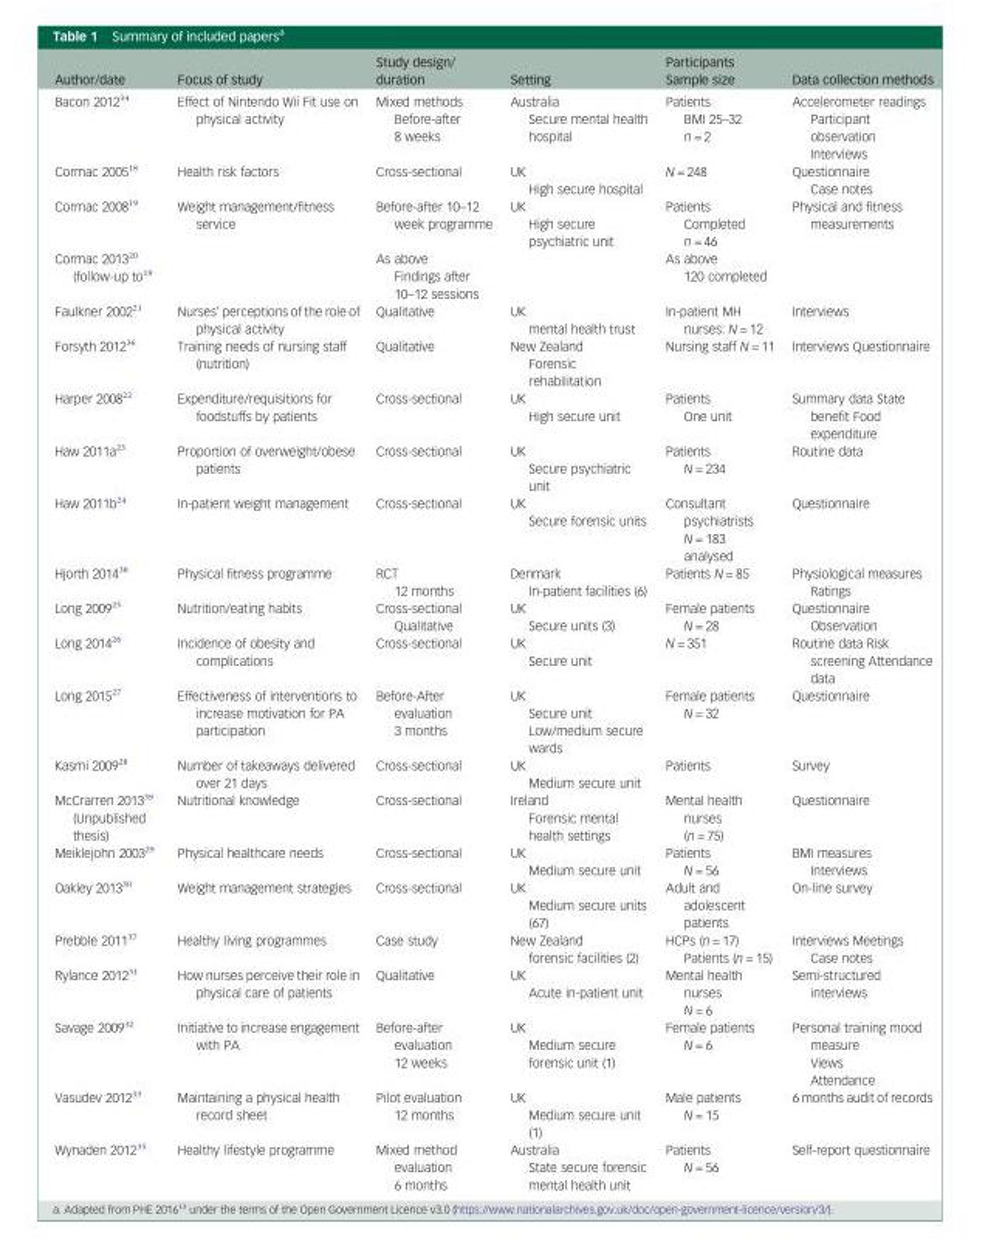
<table><thead><tr><td>Author/date</td><td>Focus of study</td><td>Study design/ duration</td><td>Setting</td><td>Participants Sample size</td><td>Data collection methods</td></tr></thead><tbody><tr><td>Bacon 2012<sup>34</sup></td><td>Effect of Nintendo Wii Fit use on physical activity</td><td>Mixed methods Before-after 8 weeks</td><td>Australia Secure mental health hospital</td><td>Patients BMI 25–32 n = 2</td><td>Accelerometer readings Participant observation Interviews</td></tr><tr><td>Cormac 2005<sup>18</sup></td><td>Health risk factors</td><td>Cross-sectional</td><td>UK High secure hospital</td><td>N = 248</td><td>Questionnaire Case notes</td></tr><tr><td>Cormac 2008<sup>19</sup></td><td rowspan="2">Weight management/fitness service</td><td>Before-after 10–12 week programme</td><td rowspan="2">UK High secure psychiatric unit</td><td>Patients Completed n = 46</td><td rowspan="2">Physical and fitness measurements</td></tr><tr><td>Cormac 2013<sup>20</sup> (follow-up to<sup>19</sup></td><td>As above Findings after 10–12 sessions</td><td>As above 120 completed</td></tr><tr><td>Faulkner 2002<sup>21</sup></td><td>Nurses’ perceptions of the role of physical activity</td><td>Qualitative</td><td>UK mental health trust</td><td>In-patient MH nurses: N = 12</td><td>Interviews</td></tr><tr><td>Forsyth 2012<sup>36</sup></td><td>Training needs of nursing staff (nutrition)</td><td>Qualitative</td><td>New Zealand Forensic rehabilitation</td><td>Nursing staff N = 11</td><td>Interviews Questionnaire</td></tr><tr><td>Harper 2008<sup>22</sup></td><td>Expenditure/requisitions for foodstuffs by patients</td><td>Cross-sectional</td><td>UK High secure unit</td><td>Patients One unit</td><td>Summary data State benefit Food expenditure</td></tr><tr><td>Haw 2011a<sup>23</sup></td><td>Proportion of overweight/obese patients</td><td>Cross-sectional</td><td>UK Secure psychiatric unit</td><td>Patients N = 234</td><td>Routine data</td></tr><tr><td>Haw 2011b<sup>24</sup></td><td>In-patient weight management</td><td>Cross-sectional</td><td>UK Secure forensic units</td><td>Consultant psychiatrists N = 183 analysed</td><td>Questionnaire</td></tr><tr><td>Hjorth 2014<sup>38</sup></td><td>Physical fitness programme</td><td>RCT 12 months</td><td>Denmark In-patient facilities (6)</td><td>Patients N = 85</td><td>Physiological measures Ratings</td></tr><tr><td>Long 2009<sup>25</sup></td><td>Nutrition/eating habits</td><td>Cross-sectional Qualitative</td><td>UK Secure units (3)</td><td>Female patients N = 28</td><td>Questionnaire Observation</td></tr><tr><td>Long 2014<sup>26</sup></td><td>Incidence of obesity and complications</td><td>Cross-sectional</td><td>UK Secure unit</td><td>N = 351</td><td>Routine data Risk screening Attendance data</td></tr><tr><td>Long 2015<sup>27</sup></td><td>Effectiveness of interventions to increase motivation for PA participation</td><td>Before-After evaluation 3 months</td><td>UK Secure unit Low/medium secure wards</td><td>Female patients N = 32</td><td>Questionnaire</td></tr><tr><td>Kasmi 2009<sup>28</sup></td><td>Number of takeaways delivered over 21 days</td><td>Cross-sectional</td><td>UK Medium secure unit</td><td>Patients</td><td>Survey</td></tr><tr><td>McCrarren 2013<sup>39</sup> (Unpublished thesis)</td><td>Nutritional knowledge</td><td>Cross-sectional</td><td>Ireland Forensic mental health settings</td><td>Mental health nurses (n = 75)</td><td>Questionnaire</td></tr><tr><td>Meiklejohn 2003<sup>29</sup></td><td>Physical healthcare needs</td><td>Cross-sectional</td><td>UK Medium secure unit</td><td>Patients N = 56</td><td>BMI measures Interviews</td></tr><tr><td>Oakley 2013<sup>30</sup></td><td>Weight management strategies</td><td>Cross-sectional</td><td>UK Medium secure units (67)</td><td>Adult and adolescent patients</td><td>On-line survey</td></tr><tr><td>Prebble 2011<sup>37</sup></td><td>Healthy living programmes</td><td>Case study</td><td>New Zealand forensic facilities (2)</td><td>HCPs (n = 17) Patients (n = 15)</td><td>Interviews Meetings Case notes</td></tr><tr><td>Rylance 2012<sup>31</sup></td><td>How nurses perceive their role in physical care of patients</td><td>Qualitative</td><td>UK Acute in-patient unit</td><td>Mental health nurses N = 6</td><td>Semi-structured interviews</td></tr><tr><td>Savage 2009<sup>32</sup></td><td>Initiative to increase engagement with PA</td><td>Before-after evaluation 12 weeks</td><td>UK Medium secure forensic unit (1)</td><td>Female patients N = 6</td><td>Personal training mood measure Views Attendance</td></tr><tr><td>Vasudev 2012<sup>33</sup></td><td>Maintaining a physical health record sheet</td><td>Pilot evaluation 12 months</td><td>UK Medium secure unit (1)</td><td>Male patients N = 15</td><td>6 months audit of records</td></tr><tr><td>Wynaden 2012<sup>35</sup></td><td>Healthy lifestyle programme</td><td>Mixed method evaluation 6 months</td><td>Australia State secure forensic mental health unit</td><td>Patients N = 56</td><td>Self-report questionnaire</td></tr></tbody></table>